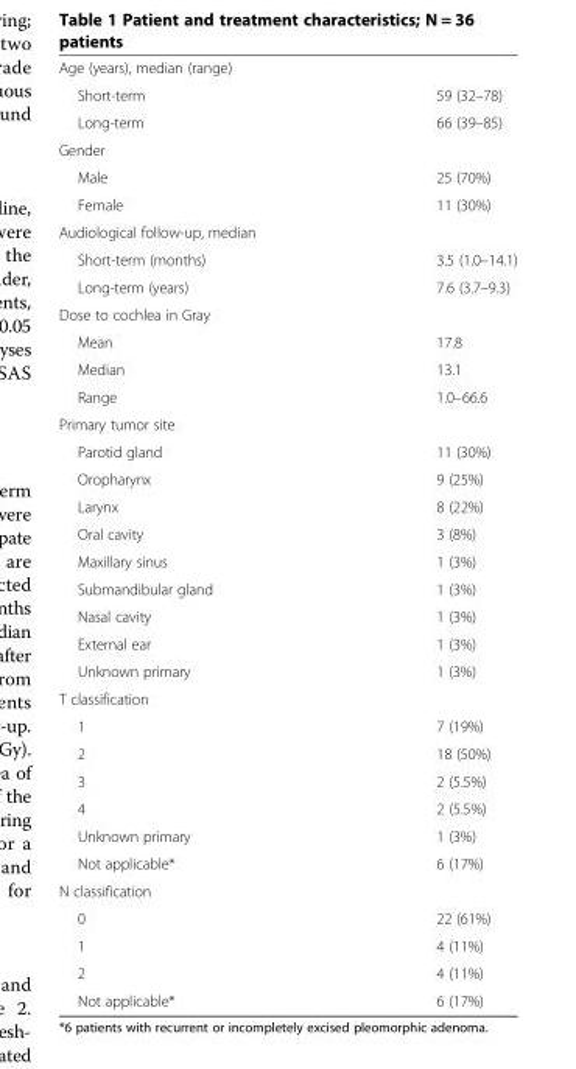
<table><tbody><tr><td colspan="2">Age (years), median (range)</td></tr><tr><td>Short-term</td><td>59 (32–78)</td></tr><tr><td>Long-term</td><td>66 (39–85)</td></tr><tr><td colspan="2">Gender</td></tr><tr><td>Male</td><td>25 (70%)</td></tr><tr><td>Female</td><td>11 (30%)</td></tr><tr><td colspan="2">Audiological follow-up, median</td></tr><tr><td>Short-term (months)</td><td>3.5 (1.0–14.1)</td></tr><tr><td>Long-term (years)</td><td>7.6 (3.7–9.3)</td></tr><tr><td colspan="2">Dose to cochlea in Gray</td></tr><tr><td>Mean</td><td>17.8</td></tr><tr><td>Median</td><td>13.1</td></tr><tr><td>Range</td><td>1.0–66.6</td></tr><tr><td colspan="2">Primary tumor site</td></tr><tr><td>Parotid gland</td><td>11 (30%)</td></tr><tr><td>Oropharynx</td><td>9 (25%)</td></tr><tr><td>Larynx</td><td>8 (22%)</td></tr><tr><td>Oral cavity</td><td>3 (8%)</td></tr><tr><td>Maxillary sinus</td><td>1 (3%)</td></tr><tr><td>Submandibular gland</td><td>1 (3%)</td></tr><tr><td>Nasal cavity</td><td>1 (3%)</td></tr><tr><td>External ear</td><td>1 (3%)</td></tr><tr><td>Unknown primary</td><td>1 (3%)</td></tr><tr><td colspan="2">T classification</td></tr><tr><td>1</td><td>7 (19%)</td></tr><tr><td>2</td><td>18 (50%)</td></tr><tr><td>3</td><td>2 (5.5%)</td></tr><tr><td>4</td><td>2 (5.5%)</td></tr><tr><td>Unknown primary</td><td>1 (3%)</td></tr><tr><td>Not applicable*</td><td>6 (17%)</td></tr><tr><td colspan="2">N classification</td></tr><tr><td>0</td><td>22 (61%)</td></tr><tr><td>1</td><td>4 (11%)</td></tr><tr><td>2</td><td>4 (11%)</td></tr><tr><td>Not applicable*</td><td>6 (17%)</td></tr></tbody></table>